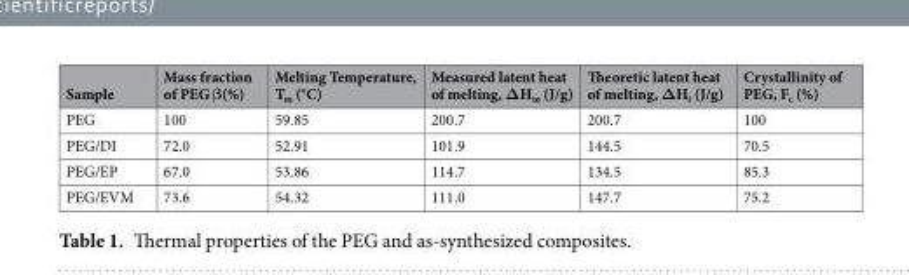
<table><thead><tr><td>Sample</td><td>Mass fraction of PEG β(%)</td><td>Melting Temperature, T<sub>m</sub> (°C)</td><td>Measured latent heat of melting, ΔH<sub>m</sub> (J/g)</td><td>Theoretic latent heat of melting, ΔH<sub>t</sub> (J/g)</td><td>Crystallinity of PEG, F<sub>c</sub> (%)</td></tr></thead><tbody><tr><td>PEG</td><td>100</td><td>59.85</td><td>200.7</td><td>200.7</td><td>100</td></tr><tr><td>PEG/DI</td><td>72.0</td><td>52.91</td><td>101.9</td><td>144.5</td><td>70.5</td></tr><tr><td>PEG/EP</td><td>67.0</td><td>53.86</td><td>114.7</td><td>134.5</td><td>85.3</td></tr><tr><td>PEG/EVM</td><td>73.6</td><td>54.32</td><td>111.0</td><td>147.7</td><td>75.2</td></tr></tbody></table>